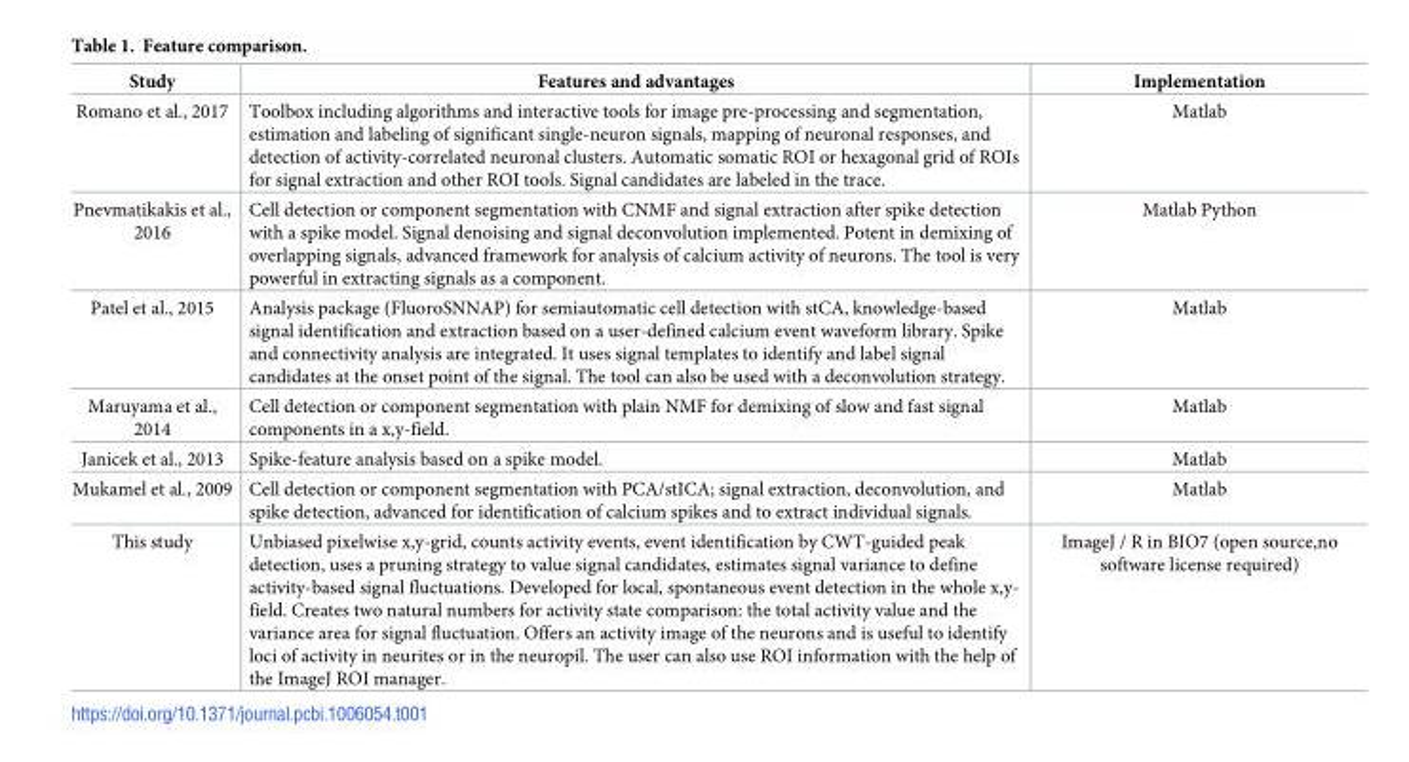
<table><thead><tr><td>Study</td><td>Features and advantages</td><td>Implementation</td></tr></thead><tbody><tr><td>Romano et al., 2017</td><td>Toolbox including algorithms and interactive tools for image pre-processing and segmentation, estimation and labeling of significant single-neuron signals, mapping of neuronal responses, and detection of activity-correlated neuronal clusters. Automatic somatic ROI or hexagonal grid of ROIs for signal extraction and other ROI tools. Signal candidates are labeled in the trace.</td><td>Matlab</td></tr><tr><td>Pnevmatikakis et al., 2016</td><td>Cell detection or component segmentation with CNMF and signal extraction after spike detection with a spike model. Signal denoising and signal deconvolution implemented. Potent in demixing of overlapping signals, advanced framework for analysis of calcium activity of neurons. The tool is very powerful in extracting signals as a component.</td><td>Matlab Python</td></tr><tr><td>Patel et al., 2015</td><td>Analysis package (FluoroSNNAP) for semiautomatic cell detection with stCA, knowledge-based signal identification and extraction based on a user-defined calcium event waveform library. Spike and connectivity analysis are integrated. It uses signal templates to identify and label signal candidates at the onset point of the signal. The tool can also be used with a deconvolution strategy.</td><td>Matlab</td></tr><tr><td>Maruyama et al., 2014</td><td>Cell detection or component segmentation with plain NMF for demixing of slow and fast signal components in a x,y-field.</td><td>Matlab</td></tr><tr><td>Janicek et al., 2013</td><td>Spike-feature analysis based on a spike model.</td><td>Matlab</td></tr><tr><td>Mukamel et al., 2009</td><td>Cell detection or component segmentation with PCA/stICA; signal extraction, deconvolution, and spike detection, advanced for identification of calcium spikes and to extract individual signals.</td><td>Matlab</td></tr><tr><td>This study</td><td>Unbiased pixelwise x,y-grid, counts activity events, event identification by CWT-guided peak detection, uses a pruning strategy to value signal candidates, estimates signal variance to define activity-based signal fluctuations. Developed for local, spontaneous event detection in the whole x,y- field. Creates two natural numbers for activity state comparison: the total activity value and the variance area for signal fluctuation. Offers an activity image of the neurons and is useful to identify loci of activity in neurites or in the neuropil. The user can also use ROI information with the help of the ImageJ ROI manager.</td><td>ImageJ / R in BIO7 (open source,no software license required)</td></tr></tbody></table>